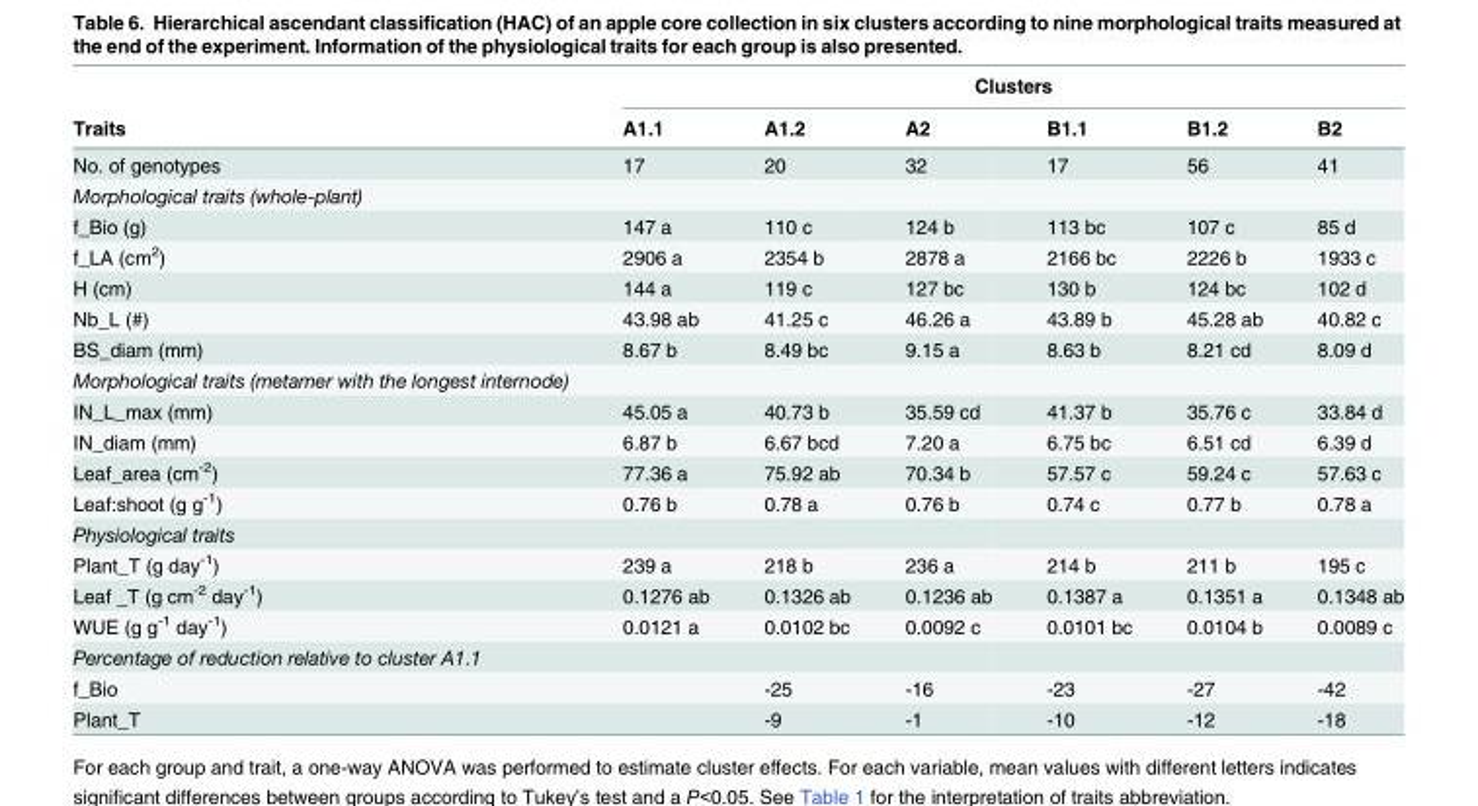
<table><thead><tr><td rowspan="2">Traits</td><td colspan="6">Clusters</td></tr><tr><td>A1.1</td><td>A1.2</td><td>A2</td><td>B1.1</td><td>B1.2</td><td>B2</td></tr></thead><tbody><tr><td>No. of genotypes</td><td>17</td><td>20</td><td>32</td><td>17</td><td>56</td><td>41</td></tr><tr><td colspan="7">Morphological traits (whole-plant)</td></tr><tr><td>f_Bio (g)</td><td>147 a</td><td>110 c</td><td>124 b</td><td>113 bc</td><td>107 c</td><td>85 d</td></tr><tr><td>f_LA (cm<sup>2</sup>)</td><td>2906 a</td><td>2354 b</td><td>2878 a</td><td>2166 bc</td><td>2226 b</td><td>1933 c</td></tr><tr><td>H (cm)</td><td>144 a</td><td>119 c</td><td>127 bc</td><td>130 b</td><td>124 bc</td><td>102 d</td></tr><tr><td>Nb_L (#)</td><td>43.98 ab</td><td>41.25 c</td><td>46.26 a</td><td>43.89 b</td><td>45.28 ab</td><td>40.82 c</td></tr><tr><td>BS_diam (mm)</td><td>8.67 b</td><td>8.49 bc</td><td>9.15 a</td><td>8.63 b</td><td>8.21 cd</td><td>8.09 d</td></tr><tr><td colspan="7">Morphological traits (metamer with the longest internode)</td></tr><tr><td>IN_L_max (mm)</td><td>45.05 a</td><td>40.73 b</td><td>35.59 cd</td><td>41.37 b</td><td>35.76 c</td><td>33.84 d</td></tr><tr><td>IN_diam (mm)</td><td>6.87 b</td><td>6.67 bcd</td><td>7.20 a</td><td>6.75 bc</td><td>6.51 cd</td><td>6.39 d</td></tr><tr><td>Leaf_area (cm<sup>-2</sup>)</td><td>77.36 a</td><td>75.92 ab</td><td>70.34 b</td><td>57.57 c</td><td>59.24 c</td><td>57.63 c</td></tr><tr><td>Leaf:shoot (g g<sup>-1</sup>)</td><td>0.76 b</td><td>0.78 a</td><td>0.76 b</td><td>0.74 c</td><td>0.77 b</td><td>0.78 a</td></tr><tr><td colspan="7">Physiological traits</td></tr><tr><td>Plant_T (g day<sup>-1</sup>)</td><td>239 a</td><td>218 b</td><td>236 a</td><td>214 b</td><td>211 b</td><td>195 c</td></tr><tr><td>Leaf _T (g cm<sup>-2</sup> day<sup>-1</sup>)</td><td>0.1276 ab</td><td>0.1326 ab</td><td>0.1236 ab</td><td>0.1387 a</td><td>0.1351 a</td><td>0.1348 ab</td></tr><tr><td>WUE (g g<sup>-1</sup> day<sup>-1</sup>)</td><td>0.0121 a</td><td>0.0102 bc</td><td>0.0092 c</td><td>0.0101 bc</td><td>0.0104 b</td><td>0.0089 c</td></tr><tr><td colspan="7">Percentage of reduction relative to cluster A1.1</td></tr><tr><td>f_Bio</td><td></td><td>-25</td><td>-16</td><td>-23</td><td>-27</td><td>-42</td></tr><tr><td>Plant_T</td><td></td><td>-9</td><td>-1</td><td>-10</td><td>-12</td><td>-18</td></tr></tbody></table>